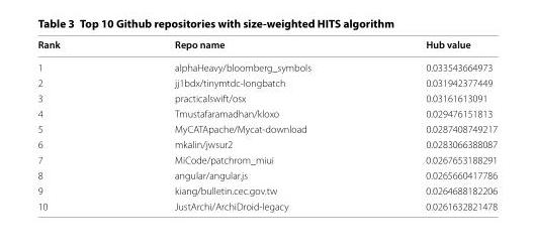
<table><thead><tr><td>Rank</td><td>Repo name</td><td>Hub value</td></tr></thead><tbody><tr><td>1</td><td>alphaHeavy/bloomberg_symbols</td><td>0.033543664973</td></tr><tr><td>2</td><td>jj1bdx/tinymtdc-longbatch</td><td>0.031942377449</td></tr><tr><td>3</td><td>practicalswift/osx</td><td>0.03161613091</td></tr><tr><td>4</td><td>Tmustafaramadhan/kloxo</td><td>0.029476151813</td></tr><tr><td>5</td><td>MyCATApache/Mycat-download</td><td>0.0287408749217</td></tr><tr><td>6</td><td>mkalin/jwsur2</td><td>0.0283066388087</td></tr><tr><td>7</td><td>MiCode/patchrom_miui</td><td>0.0267653188291</td></tr><tr><td>8</td><td>angular/angular.js</td><td>0.0265660417786</td></tr><tr><td>9</td><td>kiang/bulletin.cec.gov.tw</td><td>0.0264688182206</td></tr><tr><td>10</td><td>JustArchi/ArchiDroid-legacy</td><td>0.0261632821478</td></tr></tbody></table>